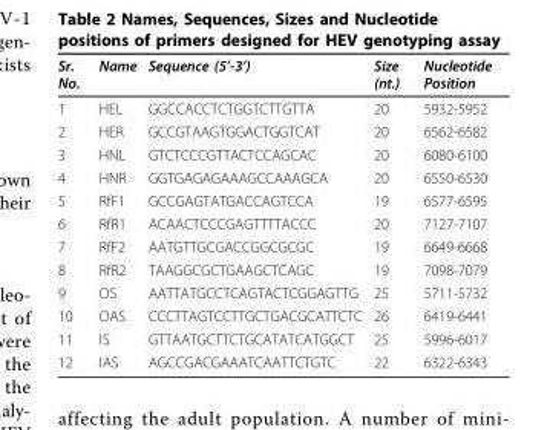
<table><thead><tr><td>Sr. No.</td><td>Name</td><td>Sequence (5’-3’)</td><td>Size (nt.)</td><td>Nucleotide Position</td></tr></thead><tbody><tr><td>1</td><td>HEL</td><td>GGCCACCTCTGGTCTTGTTA</td><td>20</td><td>5932-5952</td></tr><tr><td>2</td><td>HER</td><td>GCCGTAAGTGGACTGGTCAT</td><td>20</td><td>6562-6582</td></tr><tr><td>3</td><td>HNL</td><td>GTCTCCCGTTACTCCAGCAC</td><td>20</td><td>6080-6100</td></tr><tr><td>4</td><td>HNR</td><td>GGTGAGAGAAAGCCAAAGCA</td><td>20</td><td>6550-6530</td></tr><tr><td>5</td><td>RfF1</td><td>GCCGAGTATGACCAGTCCA</td><td>19</td><td>6577-6595</td></tr><tr><td>6</td><td>RfR1</td><td>ACAACTCCCGAGTTTTACCC</td><td>20</td><td>7127-7107</td></tr><tr><td>7</td><td>RfF2</td><td>AATGTTGCGACCGGCGCGC</td><td>19</td><td>6649-6668</td></tr><tr><td>8</td><td>RfR2</td><td>TAAGGCGCTGAAGCTCAGC</td><td>19</td><td>7098-7079</td></tr><tr><td>9</td><td>OS</td><td>AATTATGCCTCAGTACTCGGAGTTG</td><td>25</td><td>5711-5732</td></tr><tr><td>10</td><td>OAS</td><td>CCCTTAGTCCTTGCTGACGCATTCTC</td><td>26</td><td>6419-6441</td></tr><tr><td>11</td><td>IS</td><td>GTTAATGCTTCTGCATATCATGGCT</td><td>25</td><td>5996-6017</td></tr><tr><td>12</td><td>IAS</td><td>AGCCGACGAAATCAATTCTGTC</td><td>22</td><td>6322-6343</td></tr></tbody></table>